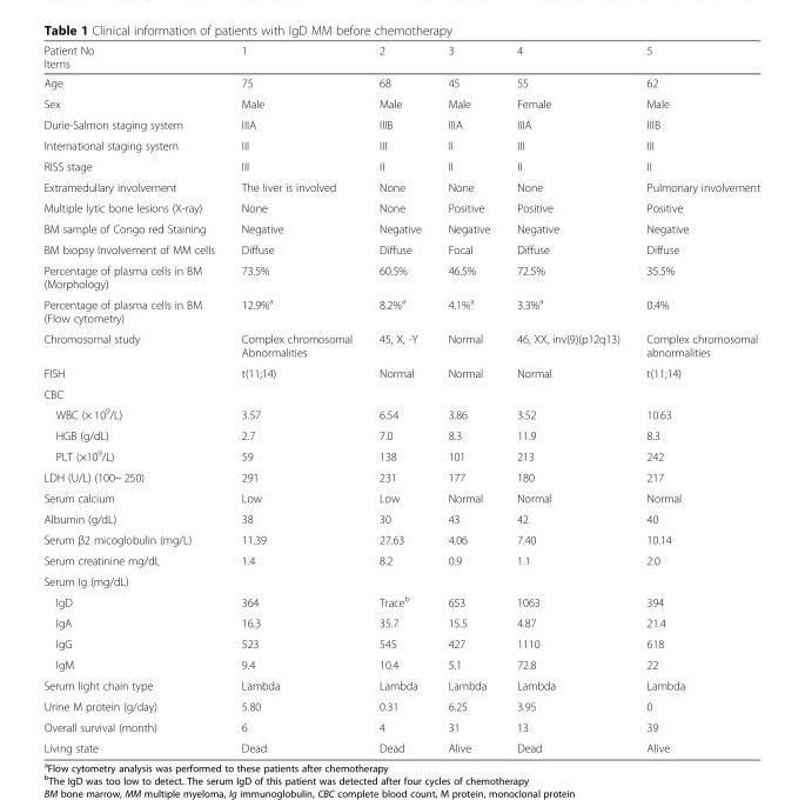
<table><thead><tr><td>Patient No Items</td><td>1</td><td>2</td><td>3</td><td>4</td><td>5</td></tr></thead><tbody><tr><td>Age</td><td>75</td><td>68</td><td>45</td><td>55</td><td>62</td></tr><tr><td>Sex</td><td>Male</td><td>Male</td><td>Male</td><td>Female</td><td>Male</td></tr><tr><td>Durie-Salmon staging system</td><td>IIIA</td><td>IIIB</td><td>IIIA</td><td>IIIA</td><td>IIIB</td></tr><tr><td>International staging system</td><td>III</td><td>III</td><td>II</td><td>III</td><td>III</td></tr><tr><td>RISS stage</td><td>III</td><td>II</td><td>II</td><td>II</td><td>II</td></tr><tr><td>Extramedullary involvement</td><td>The liver is involved</td><td>None</td><td>None</td><td>None</td><td>Pulmonary involvement</td></tr><tr><td>Multiple lytic bone lesions (X-ray)</td><td>None</td><td>None</td><td>Positive</td><td>Positive</td><td>Positive</td></tr><tr><td>BM sample of Congo red Staining</td><td>Negative</td><td>Negative</td><td>Negative</td><td>Negative</td><td>Negative</td></tr><tr><td>BM biopsy Involvement of MM cells</td><td>Diffuse</td><td>Diffuse</td><td>Focal</td><td>Diffuse</td><td>Diffuse</td></tr><tr><td>Percentage of plasma cells in BM (Morphology)</td><td>73.5%</td><td>60.5%</td><td>46.5%</td><td>72.5%</td><td>35.5%</td></tr><tr><td>Percentage of plasma cells in BM (Flow cytometry)</td><td>12.9%<sup>a</sup></td><td>8.2%<sup>a</sup></td><td>4.1%<sup>a</sup></td><td>3.3%<sup>a</sup></td><td>0.4%</td></tr><tr><td>Chromosomal study</td><td>Complex chromosomal Abnormalities</td><td>45, X, -Y</td><td>Normal</td><td>46, XX, inv(9)(p12q13)</td><td>Complex chromosomal abnormalities</td></tr><tr><td>FISH</td><td>t(11;14)</td><td>Normal</td><td>Normal</td><td>Normal</td><td>t(11;14)</td></tr><tr><td colspan="6">CBC</td></tr><tr><td>WBC (× 10<sup>9</sup>/L)</td><td>3.57</td><td>6.54</td><td>3.86</td><td>3.52</td><td>10.63</td></tr><tr><td>HGB (g/dL)</td><td>2.7</td><td>7.0</td><td>8.3</td><td>11.9</td><td>8.3</td></tr><tr><td>PLT (×10<sup>9</sup>/L)</td><td>59</td><td>138</td><td>101</td><td>213</td><td>242</td></tr><tr><td>LDH (U/L) (100~ 250)</td><td>291</td><td>231</td><td>177</td><td>180</td><td>217</td></tr><tr><td>Serum calcium</td><td>Low</td><td>Low</td><td>Normal</td><td>Normal</td><td>Normal</td></tr><tr><td>Albumin (g/dL)</td><td>38</td><td>30</td><td>43</td><td>42</td><td>40</td></tr><tr><td>Serum β2 micoglobulin (mg/L)</td><td>11.39</td><td>27.63</td><td>4.06</td><td>7.40</td><td>10.14</td></tr><tr><td>Serum creatinine mg/dL</td><td>1.4</td><td>8.2</td><td>0.9</td><td>1.1</td><td>2.0</td></tr><tr><td colspan="6">Serum Ig (mg/dL)</td></tr><tr><td>IgD</td><td>364</td><td>Trace<sup>b</sup></td><td>653</td><td>1063</td><td>394</td></tr><tr><td>IgA</td><td>16.3</td><td>35.7</td><td>15.5</td><td>4.87</td><td>21.4</td></tr><tr><td>IgG</td><td>523</td><td>545</td><td>427</td><td>1110</td><td>618</td></tr><tr><td>IgM</td><td>9.4</td><td>10.4</td><td>5.1</td><td>72.8</td><td>22</td></tr><tr><td>Serum light chain type</td><td>Lambda</td><td>Lambda</td><td>Lambda</td><td>Lambda</td><td>Lambda</td></tr><tr><td>Urine M protein (g/day)</td><td>5.80</td><td>0.31</td><td>6.25</td><td>3.95</td><td>0</td></tr><tr><td>Overall survival (month)</td><td>6</td><td>4</td><td>31</td><td>13</td><td>39</td></tr><tr><td>Living state</td><td>Dead</td><td>Dead</td><td>Alive</td><td>Dead</td><td>Alive</td></tr></tbody></table>